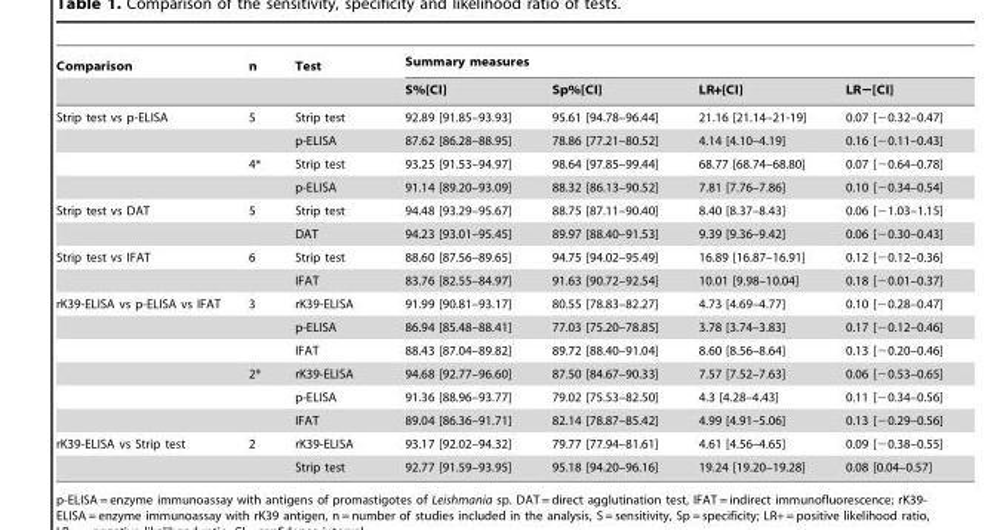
<table><thead><tr><td rowspan="2">Comparison</td><td rowspan="2">n</td><td rowspan="2">Test</td><td colspan="4">Summary measures</td></tr><tr><td>S%[CI]</td><td>Sp%[CI]</td><td>LR+[CI]</td><td>LR−[CI]</td></tr></thead><tbody><tr><td rowspan="4">Strip test vs p-ELISA</td><td>5</td><td>Strip test</td><td>92.89 [91.85–93.93]</td><td>95.61 [94.78–96.44]</td><td>21.16 [21.14–21-19]</td><td>0.07 [−0.32–0.47]</td></tr><tr><td></td><td>p-ELISA</td><td>87.62 [86.28–88.95]</td><td>78.86 [77.21–80.52]</td><td>4.14 [4.10–4.19]</td><td>0.16 [−0.11–0.43]</td></tr><tr><td>4*</td><td>Strip test</td><td>93.25 [91.53–94.97]</td><td>98.64 [97.85–99.44]</td><td>68.77 [68.74–68.80]</td><td>0.07 [−0.64–0.78]</td></tr><tr><td></td><td>p-ELISA</td><td>91.14 [89.20–93.09]</td><td>88.32 [86.13–90.52]</td><td>7.81 [7.76–7.86]</td><td>0.10 [−0.34–0.54]</td></tr><tr><td rowspan="2">Strip test vs DAT</td><td>5</td><td>Strip test</td><td>94.48 [93.29–95.67]</td><td>88.75 [87.11–90.40]</td><td>8.40 [8.37–8.43]</td><td>0.06 [−1.03–1.15]</td></tr><tr><td></td><td>DAT</td><td>94.23 [93.01–95.45]</td><td>89.97 [88.40–91.53]</td><td>9.39 [9.36–9.42]</td><td>0.06 [−0.30–0.43]</td></tr><tr><td rowspan="2">Strip test vs IFAT</td><td>6</td><td>Strip test</td><td>88.60 [87.56–89.65]</td><td>94.75 [94.02–95.49]</td><td>16.89 [16.87–16.91]</td><td>0.12 [−0.12–0.36]</td></tr><tr><td></td><td>IFAT</td><td>83.76 [82.55–84.97]</td><td>91.63 [90.72–92.54]</td><td>10.01 [9.98–10.04]</td><td>0.18 [−0.01–0.37]</td></tr><tr><td rowspan="6">rK39-ELISA vs p-ELISA vs IFAT</td><td>3</td><td>rK39-ELISA</td><td>91.99 [90.81–93.17]</td><td>80.55 [78.83–82.27]</td><td>4.73 [4.69–4.77]</td><td>0.10 [−0.28–0.47]</td></tr><tr><td></td><td>p-ELISA</td><td>86.94 [85.48–88.41]</td><td>77.03 [75.20–78.85]</td><td>3.78 [3.74–3.83]</td><td>0.17 [−0.12–0.46]</td></tr><tr><td></td><td>IFAT</td><td>88.43 [87.04–89.82]</td><td>89.72 [88.40–91.04]</td><td>8.60 [8.56–8.64]</td><td>0.13 [−0.20–0.46]</td></tr><tr><td>2*</td><td>rK39-ELISA</td><td>94.68 [92.77–96.60]</td><td>87.50 [84.67–90.33]</td><td>7.57 [7.52–7.63]</td><td>0.06 [−0.53–0.65]</td></tr><tr><td></td><td>p-ELISA</td><td>91.36 [88.96–93.77]</td><td>79.02 [75.53–82.50]</td><td>4.3 [4.28–4.43]</td><td>0.11 [−0.34–0.56]</td></tr><tr><td></td><td>IFAT</td><td>89.04 [86.36–91.71]</td><td>82.14 [78.87–85.42]</td><td>4.99 [4.91–5.06]</td><td>0.13 [−0.29–0.56]</td></tr><tr><td rowspan="2">rK39-ELISA vs Strip test</td><td>2</td><td>rK39-ELISA</td><td>93.17 [92.02–94.32]</td><td>79.77 [77.94–81.61]</td><td>4.61 [4.56–4.65]</td><td>0.09 [−0.38–0.55]</td></tr><tr><td></td><td>Strip test</td><td>92.77 [91.59–93.95]</td><td>95.18 [94.20–96.16]</td><td>19.24 [19.20–19.28]</td><td>0.08 [0.04–0.57]</td></tr></tbody></table>